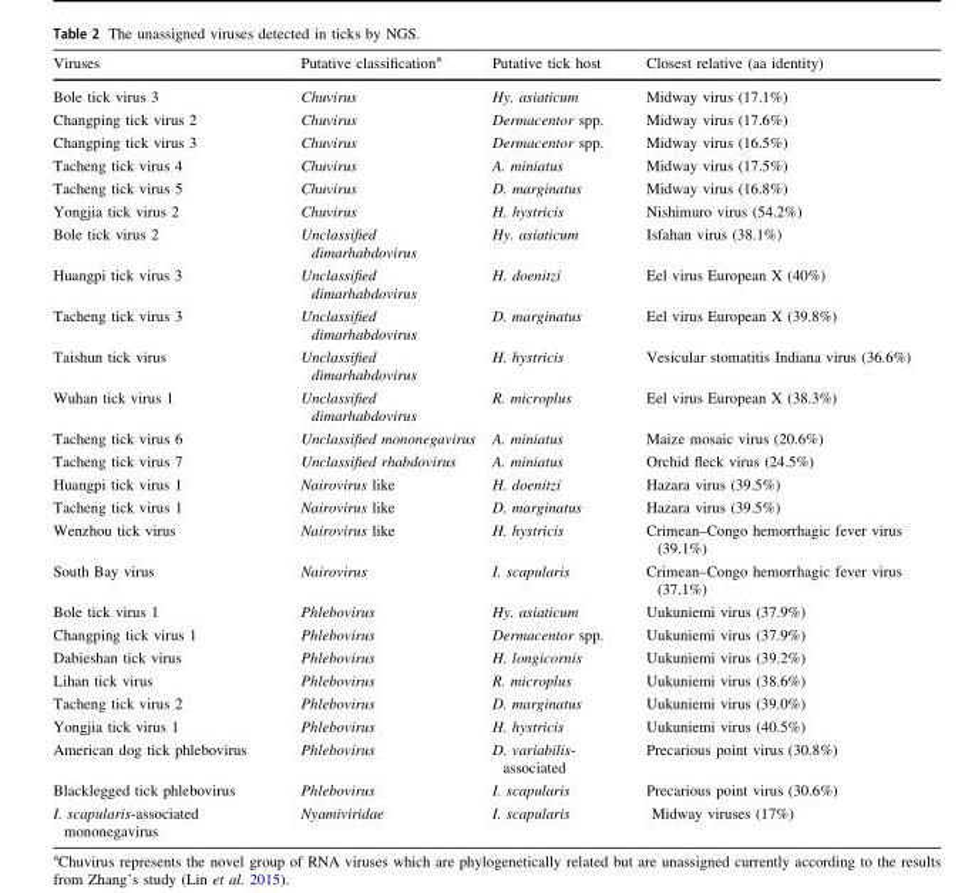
<table><thead><tr><td>Viruses</td><td>Putative classification<sup>a</sup></td><td>Putative tick host</td><td>Closest relative (aa identity)</td></tr></thead><tbody><tr><td>Bole tick virus 3</td><td>Chuvirus</td><td>Hy. asiaticum</td><td>Midway virus (17.1%)</td></tr><tr><td>Changping tick virus 2</td><td>Chuvirus</td><td>Dermacentor spp.</td><td>Midway virus (17.6%)</td></tr><tr><td>Changping tick virus 3</td><td>Chuvirus</td><td>Dermacentor spp.</td><td>Midway virus (16.5%)</td></tr><tr><td>Tacheng tick virus 4</td><td>Chuvirus</td><td>A. miniatus</td><td>Midway virus (17.5%)</td></tr><tr><td>Tacheng tick virus 5</td><td>Chuvirus</td><td>D. marginatus</td><td>Midway virus (16.8%)</td></tr><tr><td>Yongjia tick virus 2</td><td>Chuvirus</td><td>H. hystricis</td><td>Nishimuro virus (54.2%)</td></tr><tr><td>Bole tick virus 2</td><td>Unclassified dimarhabdovirus</td><td>Hy. asiaticum</td><td>Isfahan virus (38.1%)</td></tr><tr><td>Huangpi tick virus 3</td><td>Unclassified dimarhabdovirus</td><td>H. doenitzi</td><td>Eel virus European X (40%)</td></tr><tr><td>Tacheng tick virus 3</td><td>Unclassified dimarhabdovirus</td><td>D. marginatus</td><td>Eel virus European X (39.8%)</td></tr><tr><td>Taishun tick virus</td><td>Unclassified dimarhabdovirus</td><td>H. hystricis</td><td>Vesicular stomatitis Indiana virus (36.6%)</td></tr><tr><td>Wuhan tick virus 1</td><td>Unclassified dimarhabdovirus</td><td>R. microplus</td><td>Eel virus European X (38.3%)</td></tr><tr><td>Tacheng tick virus 6</td><td>Unclassified mononegavirus</td><td>A. miniatus</td><td>Maize mosaic virus (20.6%)</td></tr><tr><td>Tacheng tick virus 7</td><td>Unclassified rhabdovirus</td><td>A. miniatus</td><td>Orchid fleck virus (24.5%)</td></tr><tr><td>Huangpi tick virus 1</td><td>Nairovirus like</td><td>H. doenitzi</td><td>Hazara virus (39.5%)</td></tr><tr><td>Tacheng tick virus 1</td><td>Nairovirus like</td><td>D. marginatus</td><td>Hazara virus (39.5%)</td></tr><tr><td>Wenzhou tick virus</td><td>Nairovirus like</td><td>H. hystricis</td><td>Crimean–Congo hemorrhagic fever virus (39.1%)</td></tr><tr><td>South Bay virus</td><td>Nairovirus</td><td>I. scapularis</td><td>Crimean–Congo hemorrhagic fever virus (37.1%)</td></tr><tr><td>Bole tick virus 1</td><td>Phlebovirus</td><td>Hy. asiaticum</td><td>Uukuniemi virus (37.9%)</td></tr><tr><td>Changping tick virus 1</td><td>Phlebovirus</td><td>Dermacentor spp.</td><td>Uukuniemi virus (37.9%)</td></tr><tr><td>Dabieshan tick virus</td><td>Phlebovirus</td><td>H. longicornis</td><td>Uukuniemi virus (39.2%)</td></tr><tr><td>Lihan tick virus</td><td>Phlebovirus</td><td>R. microplus</td><td>Uukuniemi virus (38.6%)</td></tr><tr><td>Tacheng tick virus 2</td><td>Phlebovirus</td><td>D. marginatus</td><td>Uukuniemi virus (39.0%)</td></tr><tr><td>Yongjia tick virus 1</td><td>Phlebovirus</td><td>H. hystricis</td><td>Uukuniemi virus (40.5%)</td></tr><tr><td>American dog tick phlebovirus</td><td>Phlebovirus</td><td>D. variabilis- associated</td><td>Precarious point virus (30.8%)</td></tr><tr><td>Blacklegged tick phlebovirus</td><td>Phlebovirus</td><td>I. scapularis</td><td>Precarious point virus (30.6%)</td></tr><tr><td>I. scapularis-associated mononegavirus</td><td>Nyamiviridae</td><td>I. scapularis</td><td>Midway viruses (17%)</td></tr></tbody></table>